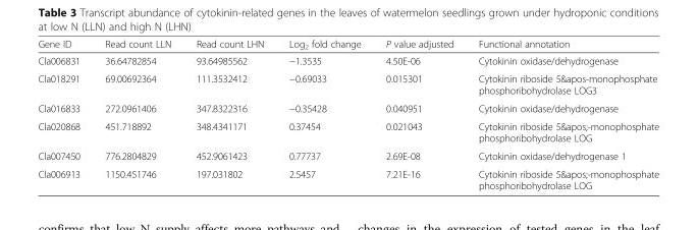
<table><thead><tr><td>Gene ID</td><td>Read count LLN</td><td>Read count LHN</td><td>Log<sub>2</sub> fold change</td><td>P value adjusted</td><td>Functional annotation</td></tr></thead><tbody><tr><td>Cla006831</td><td>36.64782854</td><td>93.64985562</td><td>−1.3535</td><td>4.50E-06</td><td>Cytokinin oxidase/dehydrogenase</td></tr><tr><td>Cla018291</td><td>69.00692364</td><td>111.3532412</td><td>−0.69033</td><td>0.015301</td><td>Cytokinin riboside 5&amp;apos-monophosphate phosphoribohydrolase LOG3</td></tr><tr><td>Cla016833</td><td>272.0961406</td><td>347.8322316</td><td>−0.35428</td><td>0.040951</td><td>Cytokinin oxidase/dehydrogenase</td></tr><tr><td>Cla020868</td><td>451.718892</td><td>348.4341171</td><td>0.37454</td><td>0.021043</td><td>Cytokinin riboside 5&amp;apos;-monophosphate phosphoribohydrolase LOG</td></tr><tr><td>Cla007450</td><td>776.2804829</td><td>452.9061423</td><td>0.77737</td><td>2.69E-08</td><td>Cytokinin oxidase/dehydrogenase 1</td></tr><tr><td>Cla006913</td><td>1150.451746</td><td>197.031802</td><td>2.5457</td><td>7.21E-16</td><td>Cytokinin riboside 5&amp;apos;-monophosphate phosphoribohydrolase LOG</td></tr></tbody></table>